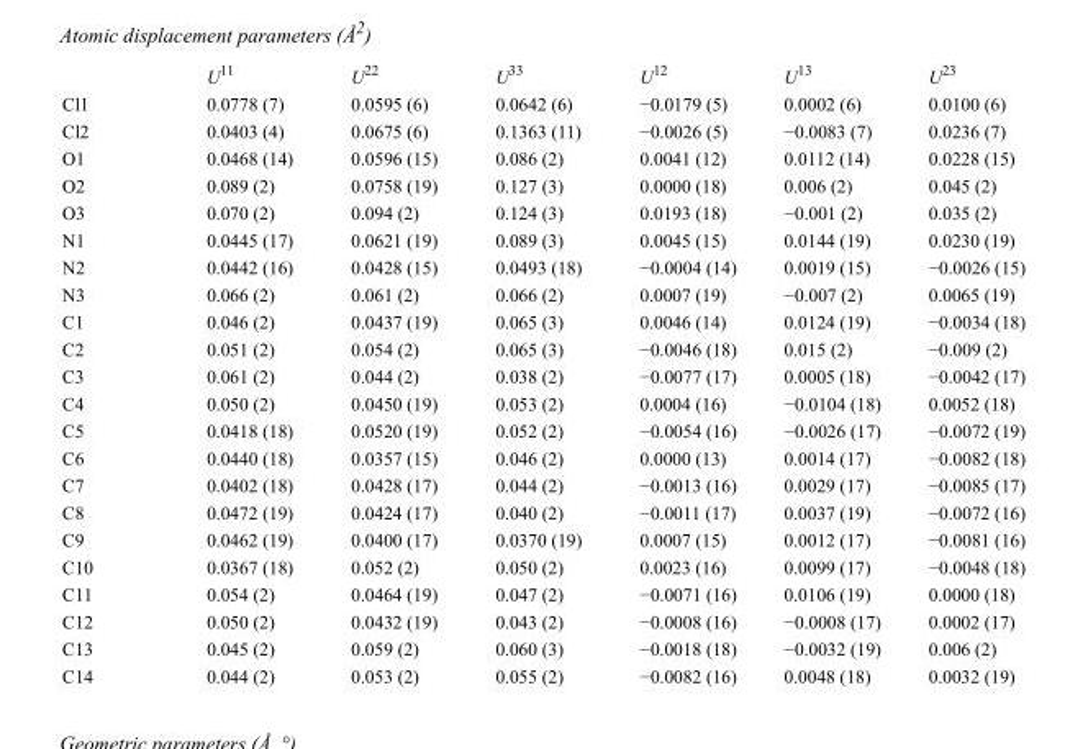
<table><thead><tr><td></td><td>U<sup>11</sup></td><td>U<sup>22</sup></td><td>U<sup>33</sup></td><td>U<sup>12</sup></td><td>U<sup>13</sup></td><td>U<sup>23</sup></td></tr></thead><tbody><tr><td>Cl1</td><td>0.0778 (7)</td><td>0.0595 (6)</td><td>0.0642 (6)</td><td>−0.0179 (5)</td><td>0.0002 (6)</td><td>0.0100 (6)</td></tr><tr><td>Cl2</td><td>0.0403 (4)</td><td>0.0675 (6)</td><td>0.1363 (11)</td><td>−0.0026 (5)</td><td>−0.0083 (7)</td><td>0.0236 (7)</td></tr><tr><td>O1</td><td>0.0468 (14)</td><td>0.0596 (15)</td><td>0.086 (2)</td><td>0.0041 (12)</td><td>0.0112 (14)</td><td>0.0228 (15)</td></tr><tr><td>O2</td><td>0.089 (2)</td><td>0.0758 (19)</td><td>0.127 (3)</td><td>0.0000 (18)</td><td>0.006 (2)</td><td>0.045 (2)</td></tr><tr><td>O3</td><td>0.070 (2)</td><td>0.094 (2)</td><td>0.124 (3)</td><td>0.0193 (18)</td><td>−0.001 (2)</td><td>0.035 (2)</td></tr><tr><td>N1</td><td>0.0445 (17)</td><td>0.0621 (19)</td><td>0.089 (3)</td><td>0.0045 (15)</td><td>0.0144 (19)</td><td>0.0230 (19)</td></tr><tr><td>N2</td><td>0.0442 (16)</td><td>0.0428 (15)</td><td>0.0493 (18)</td><td>−0.0004 (14)</td><td>0.0019 (15)</td><td>−0.0026 (15)</td></tr><tr><td>N3</td><td>0.066 (2)</td><td>0.061 (2)</td><td>0.066 (2)</td><td>0.0007 (19)</td><td>−0.007 (2)</td><td>0.0065 (19)</td></tr><tr><td>C1</td><td>0.046 (2)</td><td>0.0437 (19)</td><td>0.065 (3)</td><td>0.0046 (14)</td><td>0.0124 (19)</td><td>−0.0034 (18)</td></tr><tr><td>C2</td><td>0.051 (2)</td><td>0.054 (2)</td><td>0.065 (3)</td><td>−0.0046 (18)</td><td>0.015 (2)</td><td>−0.009 (2)</td></tr><tr><td>C3</td><td>0.061 (2)</td><td>0.044 (2)</td><td>0.038 (2)</td><td>−0.0077 (17)</td><td>0.0005 (18)</td><td>−0.0042 (17)</td></tr><tr><td>C4</td><td>0.050 (2)</td><td>0.0450 (19)</td><td>0.053 (2)</td><td>0.0004 (16)</td><td>−0.0104 (18)</td><td>0.0052 (18)</td></tr><tr><td>C5</td><td>0.0418 (18)</td><td>0.0520 (19)</td><td>0.052 (2)</td><td>−0.0054 (16)</td><td>−0.0026 (17)</td><td>−0.0072 (19)</td></tr><tr><td>C6</td><td>0.0440 (18)</td><td>0.0357 (15)</td><td>0.046 (2)</td><td>0.0000 (13)</td><td>0.0014 (17)</td><td>−0.0082 (18)</td></tr><tr><td>C7</td><td>0.0402 (18)</td><td>0.0428 (17)</td><td>0.044 (2)</td><td>−0.0013 (16)</td><td>0.0029 (17)</td><td>−0.0085 (17)</td></tr><tr><td>C8</td><td>0.0472 (19)</td><td>0.0424 (17)</td><td>0.040 (2)</td><td>−0.0011 (17)</td><td>0.0037 (19)</td><td>−0.0072 (16)</td></tr><tr><td>C9</td><td>0.0462 (19)</td><td>0.0400 (17)</td><td>0.0370 (19)</td><td>0.0007 (15)</td><td>0.0012 (17)</td><td>−0.0081 (16)</td></tr><tr><td>C10</td><td>0.0367 (18)</td><td>0.052 (2)</td><td>0.050 (2)</td><td>0.0023 (16)</td><td>0.0099 (17)</td><td>−0.0048 (18)</td></tr><tr><td>C11</td><td>0.054 (2)</td><td>0.0464 (19)</td><td>0.047 (2)</td><td>−0.0071 (16)</td><td>0.0106 (19)</td><td>0.0000 (18)</td></tr><tr><td>C12</td><td>0.050 (2)</td><td>0.0432 (19)</td><td>0.043 (2)</td><td>−0.0008 (16)</td><td>−0.0008 (17)</td><td>0.0002 (17)</td></tr><tr><td>C13</td><td>0.045 (2)</td><td>0.059 (2)</td><td>0.060 (3)</td><td>−0.0018 (18)</td><td>−0.0032 (19)</td><td>0.006 (2)</td></tr><tr><td>C14</td><td>0.044 (2)</td><td>0.053 (2)</td><td>0.055 (2)</td><td>−0.0082 (16)</td><td>0.0048 (18)</td><td>0.0032 (19)</td></tr></tbody></table>